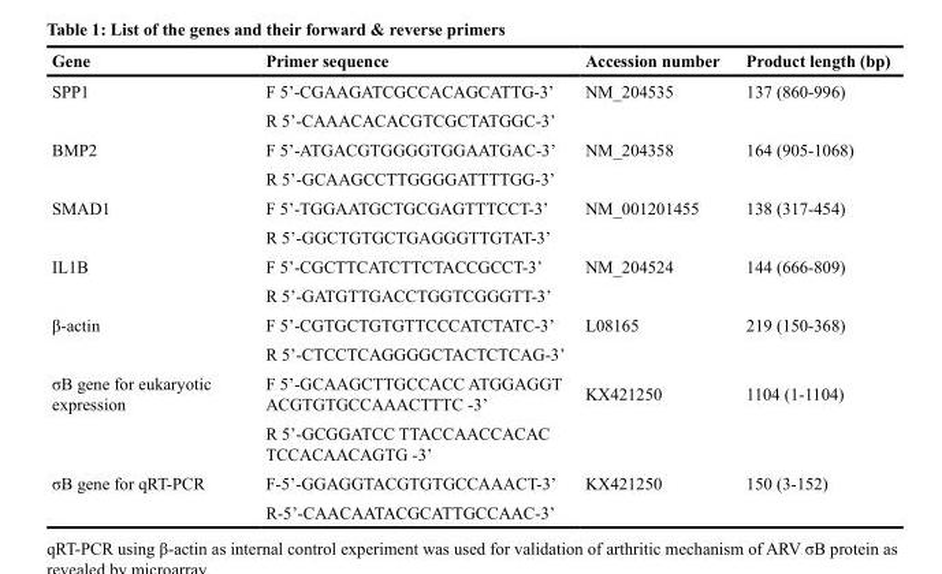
<table><thead><tr><td>Gene</td><td>Primer sequence</td><td>Accession number</td><td>Product length (bp)</td></tr></thead><tbody><tr><td rowspan="2">SPP1</td><td>F 5’-CGAAGATCGCCACAGCATTG-3’</td><td>NM_204535</td><td>137 (860-996)</td></tr><tr><td>R 5’-CAAACACACGTCGCTATGGC-3’</td><td></td><td></td></tr><tr><td rowspan="2">BMP2</td><td>F 5’-ATGACGTGGGGTGGAATGAC-3’</td><td>NM_204358</td><td>164 (905-1068)</td></tr><tr><td>R 5’-GCAAGCCTTGGGGATTTTGG-3’</td><td></td><td></td></tr><tr><td rowspan="2">SMAD1</td><td>F 5’-TGGAATGCTGCGAGTTTCCT-3’</td><td>NM_001201455</td><td>138 (317-454)</td></tr><tr><td>R 5’-GGCTGTGCTGAGGGTTGTAT-3’</td><td></td><td></td></tr><tr><td rowspan="2">IL1B</td><td>F 5’-CGCTTCATCTTCTACCGCCT-3’</td><td>NM_204524</td><td>144 (666-809)</td></tr><tr><td>R 5’-GATGTTGACCTGGTCGGGTT-3’</td><td></td><td></td></tr><tr><td rowspan="2">β-actin</td><td>F 5’-CGTGCTGTGTTCCCATCTATC-3’</td><td>L08165</td><td>219 (150-368)</td></tr><tr><td>R 5’-CTCCTCAGGGGCTACTCTCAG-3’</td><td></td><td></td></tr><tr><td rowspan="2">σB gene for eukaryotic expression</td><td>F 5’-GCAAGCTTGCCACC ATGGAGGT ACGTGTGCCAAACTTTC -3’</td><td>KX421250</td><td>1104 (1-1104)</td></tr><tr><td>R 5’-GCGGATCC TTACCAACCACAC TCCACAACAGTG -3’</td><td></td><td></td></tr><tr><td rowspan="2">σB gene for qRT-PCR</td><td>F-5’-GGAGGTACGTGTGCCAAACT-3’</td><td>KX421250</td><td>150 (3-152)</td></tr><tr><td>R-5’-CAACAATACGCATTGCCAAC-3’</td><td></td><td></td></tr></tbody></table>